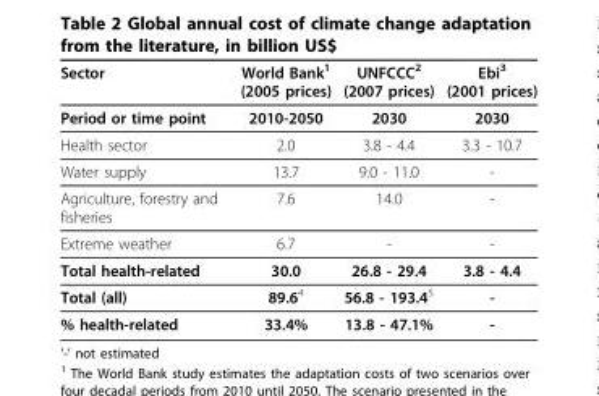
<table><thead><tr><td>Sector</td><td>World Bank<sup>1</sup> (2005 prices)</td><td>UNFCCC<sup>2</sup> (2007 prices)</td><td>Ebi<sup>3</sup> (2001 prices)</td></tr></thead><tbody><tr><td>Period or time point</td><td>2010-2050</td><td>2030</td><td>2030</td></tr><tr><td>Health sector</td><td>2.0</td><td>3.8 - 4.4</td><td>3.3 - 10.7</td></tr><tr><td>Water supply</td><td>13.7</td><td>9.0 - 11.0</td><td>-</td></tr><tr><td>Agriculture, forestry and fisheries</td><td>7.6</td><td>14.0</td><td>-</td></tr><tr><td>Extreme weather</td><td>6.7</td><td>-</td><td>-</td></tr><tr><td>Total health-related</td><td>30.0</td><td>26.8 - 29.4</td><td>3.8 - 4.4</td></tr><tr><td>Total (all)</td><td>89.6<sup>4</sup></td><td>56.8 - 193.4<sup>5</sup></td><td>-</td></tr><tr><td>% health-related</td><td>33.4%</td><td>13.8 - 47.1%</td><td>-</td></tr></tbody></table>